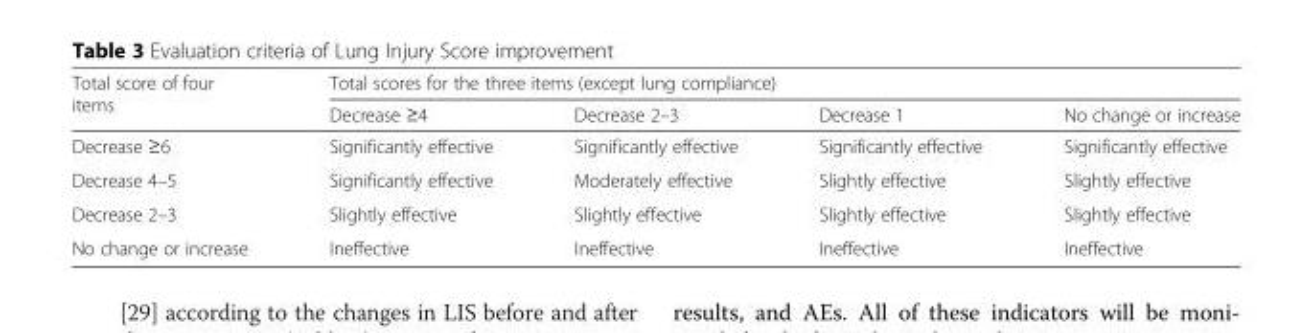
<table><thead><tr><td rowspan="2">Total score of four items</td><td colspan="4">Total scores for the three items (except lung compliance)</td></tr><tr><td>Decrease ≥4</td><td>Decrease 2–3</td><td>Decrease 1</td><td>No change or increase</td></tr></thead><tbody><tr><td>Decrease ≥6</td><td>Significantly effective</td><td>Significantly effective</td><td>Significantly effective</td><td>Significantly effective</td></tr><tr><td>Decrease 4–5</td><td>Significantly effective</td><td>Moderately effective</td><td>Slightly effective</td><td>Slightly effective</td></tr><tr><td>Decrease 2–3</td><td>Slightly effective</td><td>Slightly effective</td><td>Slightly effective</td><td>Slightly effective</td></tr><tr><td>No change or increase</td><td>Ineffective</td><td>Ineffective</td><td>Ineffective</td><td>Ineffective</td></tr></tbody></table>